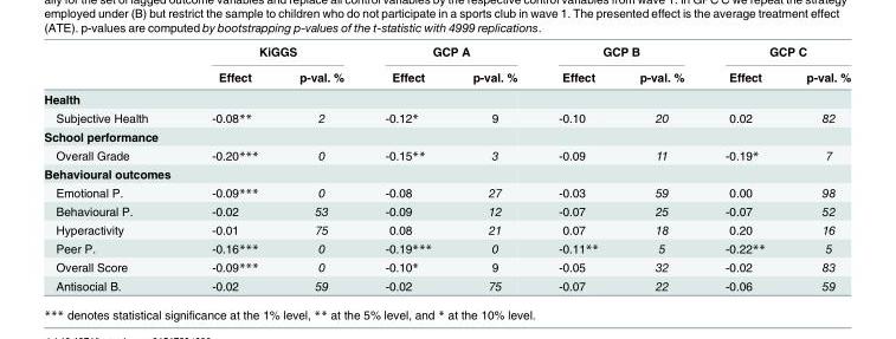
<table><thead><tr><td rowspan="2"></td><td colspan="2">KiGGS</td><td colspan="2">GCP A</td><td colspan="2">GCP B</td><td colspan="2">GCP C</td></tr><tr><td>Effect</td><td>p-val. %</td><td>Effect</td><td>p-val. %</td><td>Effect</td><td>p-val. %</td><td>Effect</td><td>p-val. %</td></tr></thead><tbody><tr><td colspan="9">Health</td></tr><tr><td>Subjective Health</td><td>-0.08**</td><td>2</td><td>-0.12*</td><td>9</td><td>-0.10</td><td>20</td><td>0.02</td><td>82</td></tr><tr><td colspan="9">School performance</td></tr><tr><td>Overall Grade</td><td>-0.20***</td><td>0</td><td>-0.15**</td><td>3</td><td>-0.09</td><td>11</td><td>-0.19*</td><td>7</td></tr><tr><td colspan="9">Behavioural outcomes</td></tr><tr><td>Emotional P.</td><td>-0.09***</td><td>0</td><td>-0.08</td><td>27</td><td>-0.03</td><td>59</td><td>0.00</td><td>98</td></tr><tr><td>Behavioural P.</td><td>-0.02</td><td>53</td><td>-0.09</td><td>12</td><td>-0.07</td><td>25</td><td>-0.07</td><td>52</td></tr><tr><td>Hyperactivity</td><td>-0.01</td><td>75</td><td>0.08</td><td>21</td><td>0.07</td><td>18</td><td>0.20</td><td>16</td></tr><tr><td>Peer P.</td><td>-0.16***</td><td>0</td><td>-0.19***</td><td>0</td><td>-0.11**</td><td>5</td><td>-0.22**</td><td>5</td></tr><tr><td>Overall Score</td><td>-0.09***</td><td>0</td><td>-0.10*</td><td>9</td><td>-0.05</td><td>32</td><td>-0.02</td><td>83</td></tr><tr><td>Antisocial B.</td><td>-0.02</td><td>59</td><td>-0.02</td><td>75</td><td>-0.07</td><td>22</td><td>-0.06</td><td>59</td></tr></tbody></table>